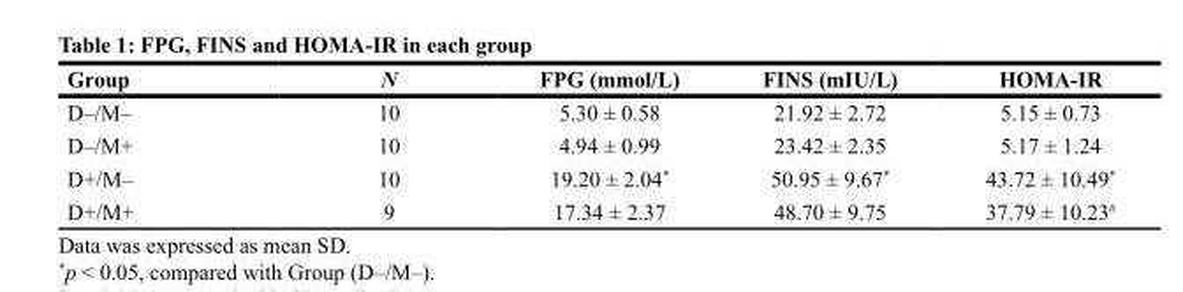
<table><thead><tr><td>Group</td><td>N</td><td>FPG (mmol/L)</td><td>FINS (mIU/L)</td><td>HOMA-IR</td></tr></thead><tbody><tr><td>D–/M–</td><td>10</td><td>5.30 ± 0.58</td><td>21.92 ± 2.72</td><td>5.15 ± 0.73</td></tr><tr><td>D–/M+</td><td>10</td><td>4.94 ± 0.99</td><td>23.42 ± 2.35</td><td>5.17 ± 1.24</td></tr><tr><td>D+/M–</td><td>10</td><td>19.20 ± 2.04*</td><td>50.95 ± 9.67*</td><td>43.72 ± 10.49*</td></tr><tr><td>D+/M+</td><td>9</td><td>17.34 ± 2.37</td><td>48.70 ± 9.75</td><td>37.79 ± 10.23<sup>#</sup></td></tr></tbody></table>